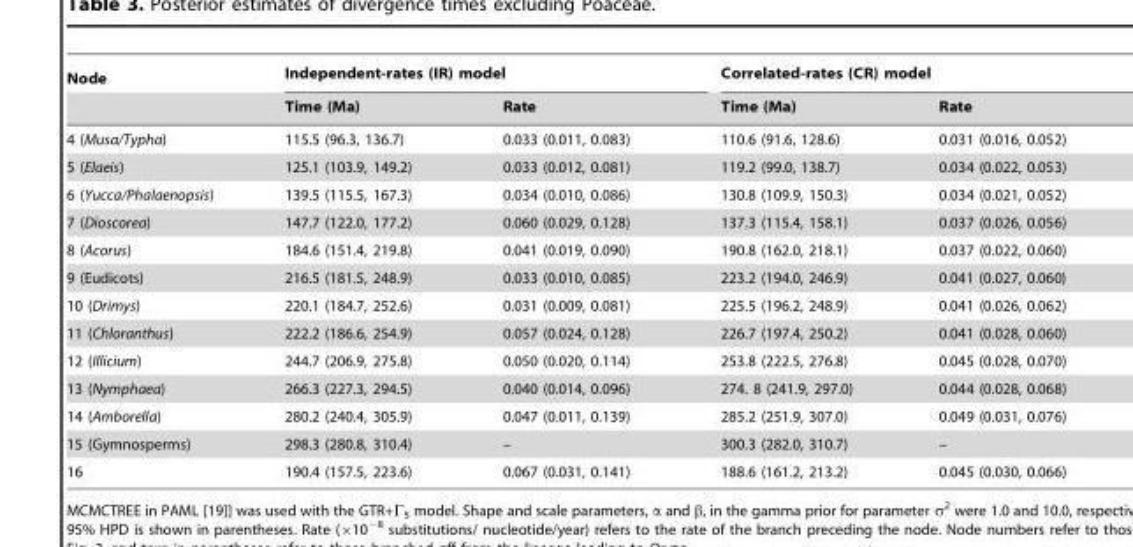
<table><thead><tr><td rowspan="2">Node</td><td colspan="2">Independent-rates (IR) model</td><td colspan="2">Correlated-rates (CR) model</td></tr><tr><td>Time (Ma)</td><td>Rate</td><td>Time (Ma)</td><td>Rate</td></tr></thead><tbody><tr><td>4 (Musa/Typha)</td><td>115.5 (96.3, 136.7)</td><td>0.033 (0.011, 0.083)</td><td>110.6 (91.6, 128.6)</td><td>0.031 (0.016, 0.052)</td></tr><tr><td>5 (Elaeis)</td><td>125.1 (103.9, 149.2)</td><td>0.033 (0.012, 0.081)</td><td>119.2 (99.0, 138.7)</td><td>0.034 (0.022, 0.053)</td></tr><tr><td>6 (Yucca/Phalaenopsis)</td><td>139.5 (115.5, 167.3)</td><td>0.034 (0.010, 0.086)</td><td>130.8 (109.9, 150.3)</td><td>0.034 (0.021, 0.052)</td></tr><tr><td>7 (Dioscorea)</td><td>147.7 (122.0, 177.2)</td><td>0.060 (0.029, 0.128)</td><td>137.3 (115.4, 158.1)</td><td>0.037 (0.026, 0.056)</td></tr><tr><td>8 (Acorus)</td><td>184.6 (151.4, 219.8)</td><td>0.041 (0.019, 0.090)</td><td>190.8 (162.0, 218.1)</td><td>0.037 (0.022, 0.060)</td></tr><tr><td>9 (Eudicots)</td><td>216.5 (181.5, 248.9)</td><td>0.033 (0.010, 0.085)</td><td>223.2 (194.0, 246.9)</td><td>0.041 (0.027, 0.060)</td></tr><tr><td>10 (Drimys)</td><td>220.1 (184.7, 252.6)</td><td>0.031 (0.009, 0.081)</td><td>225.5 (196.2, 248.9)</td><td>0.041 (0.026, 0.062)</td></tr><tr><td>11 (Chloranthus)</td><td>222.2 (186.6, 254.9)</td><td>0.057 (0.024, 0.128)</td><td>226.7 (197.4, 250.2)</td><td>0.041 (0.028, 0.060)</td></tr><tr><td>12 (Illicium)</td><td>244.7 (206.9, 275.8)</td><td>0.050 (0.020, 0.114)</td><td>253.8 (222.5, 276.8)</td><td>0.045 (0.028, 0.070)</td></tr><tr><td>13 (Nymphaea)</td><td>266.3 (227.3, 294.5)</td><td>0.040 (0.014, 0.096)</td><td>274. 8 (241.9, 297.0)</td><td>0.044 (0.028, 0.068)</td></tr><tr><td>14 (Amborella)</td><td>280.2 (240.4, 305.9)</td><td>0.047 (0.011, 0.139)</td><td>285.2 (251.9, 307.0)</td><td>0.049 (0.031, 0.076)</td></tr><tr><td>15 (Gymnosperms)</td><td>298.3 (280.8, 310.4)</td><td>–</td><td>300.3 (282.0, 310.7)</td><td>–</td></tr><tr><td>16</td><td>190.4 (157.5, 223.6)</td><td>0.067 (0.031, 0.141)</td><td>188.6 (161.2, 213.2)</td><td>0.045 (0.030, 0.066)</td></tr></tbody></table>